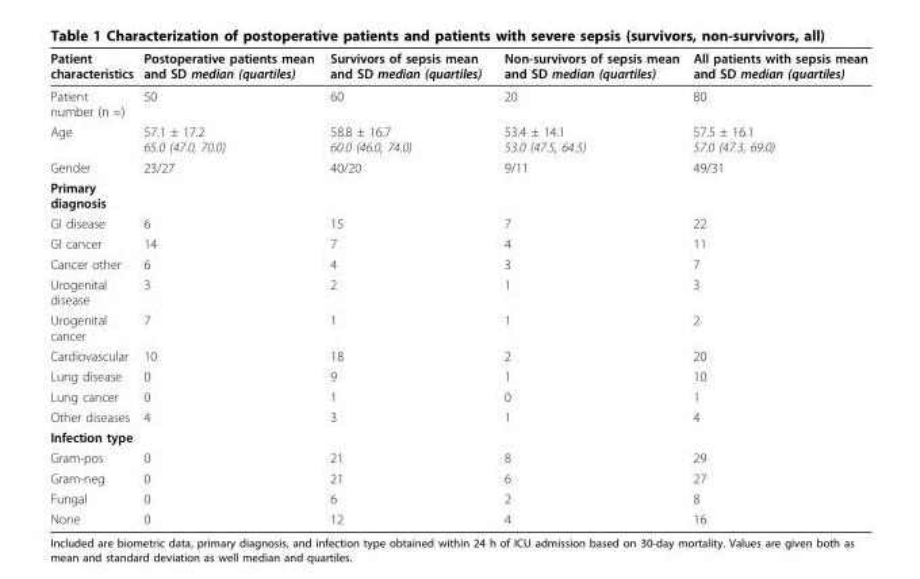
<table><thead><tr><td>Patient characteristics</td><td>Postoperative patients mean and SD median (quartiles)</td><td>Survivors of sepsis mean and SD median (quartiles)</td><td>Non-survivors of sepsis mean and SD median (quartiles)</td><td>All patients with sepsis mean and SD median (quartiles)</td></tr></thead><tbody><tr><td>Patient number (n =)</td><td>50</td><td>60</td><td>20</td><td>80</td></tr><tr><td>Age</td><td>57.1 ± 17.2 65.0 (47.0, 70.0)</td><td>58.8 ± 16.7 60.0 (46.0, 74.0)</td><td>53.4 ± 14.1 53.0 (47.5, 64.5)</td><td>57.5 ± 16.1 57.0 (47.3, 69.0)</td></tr><tr><td>Gender</td><td>23/27</td><td>40/20</td><td>9/11</td><td>49/31</td></tr><tr><td colspan="5">Primary diagnosis</td></tr><tr><td>GI disease</td><td>6</td><td>15</td><td>7</td><td>22</td></tr><tr><td>GI cancer</td><td>14</td><td>7</td><td>4</td><td>11</td></tr><tr><td>Cancer other</td><td>6</td><td>4</td><td>3</td><td>7</td></tr><tr><td>Urogenital disease</td><td>3</td><td>2</td><td>1</td><td>3</td></tr><tr><td>Urogenital cancer</td><td>7</td><td>1</td><td>1</td><td>2</td></tr><tr><td>Cardiovascular</td><td>10</td><td>18</td><td>2</td><td>20</td></tr><tr><td>Lung disease</td><td>0</td><td>9</td><td>1</td><td>10</td></tr><tr><td>Lung cancer</td><td>0</td><td>1</td><td>0</td><td>1</td></tr><tr><td>Other diseases</td><td>4</td><td>3</td><td>1</td><td>4</td></tr><tr><td colspan="5">Infection type</td></tr><tr><td>Gram-pos</td><td>0</td><td>21</td><td>8</td><td>29</td></tr><tr><td>Gram-neg</td><td>0</td><td>21</td><td>6</td><td>27</td></tr><tr><td>Fungal</td><td>0</td><td>6</td><td>2</td><td>8</td></tr><tr><td>None</td><td>0</td><td>12</td><td>4</td><td>16</td></tr></tbody></table>